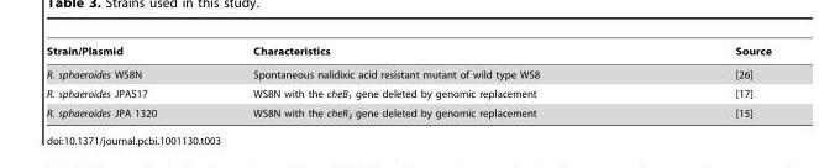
<table><thead><tr><td>Strain/Plasmid</td><td>Characteristics</td><td>Source</td></tr></thead><tbody><tr><td>R. sphaeroides WS8N</td><td>Spontaneous nalidixic acid resistant mutant of wild type WS8</td><td>[26]</td></tr><tr><td>R. sphaeroides JPA517</td><td>WS8N with the cheB<sub>1</sub> gene deleted by genomic replacement</td><td>[17]</td></tr><tr><td>R. sphaeroides JPA 1320</td><td>WS8N with the cheR<sub>3</sub> gene deleted by genomic replacement</td><td>[15]</td></tr></tbody></table>